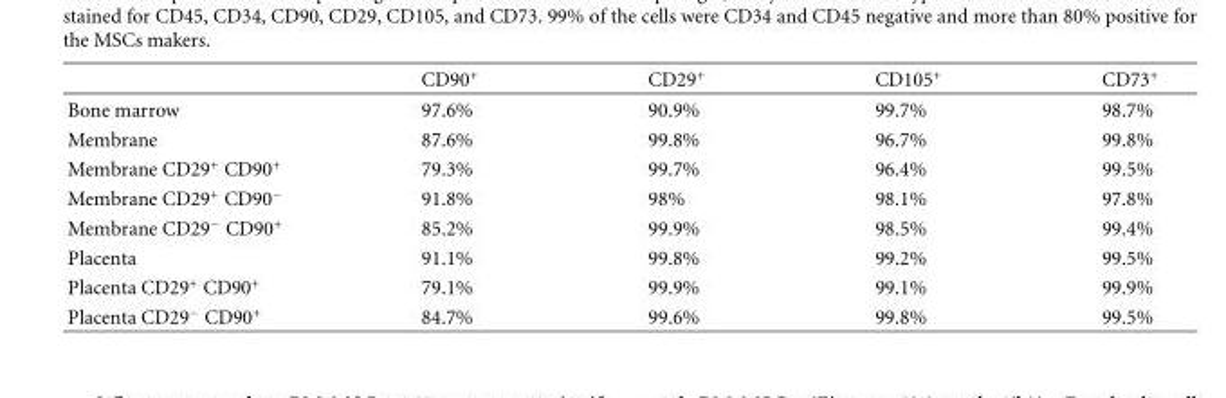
<table><thead><tr><td></td><td>CD90<sup>+</sup></td><td>CD29<sup>+</sup></td><td>CD105<sup>+</sup></td><td>CD73<sup>+</sup></td></tr></thead><tbody><tr><td>Bone marrow</td><td>97.6%</td><td>90.9%</td><td>99.7%</td><td>98.7%</td></tr><tr><td>Membrane</td><td>87.6%</td><td>99.8%</td><td>96.7%</td><td>99.8%</td></tr><tr><td>Membrane CD29<sup>+</sup> CD90<sup>+</sup></td><td>79.3%</td><td>99.7%</td><td>96.4%</td><td>99.5%</td></tr><tr><td>Membrane CD29<sup>+</sup> CD90<sup>−</sup></td><td>91.8%</td><td>98%</td><td>98.1%</td><td>97.8%</td></tr><tr><td>Membrane CD29<sup>−</sup> CD90<sup>+</sup></td><td>85.2%</td><td>99.9%</td><td>98.5%</td><td>99.4%</td></tr><tr><td>Placenta</td><td>91.1%</td><td>99.8%</td><td>99.2%</td><td>99.5%</td></tr><tr><td>Placenta CD29<sup>+</sup> CD90<sup>+</sup></td><td>79.1%</td><td>99.9%</td><td>99.1%</td><td>99.9%</td></tr><tr><td>Placenta CD29<sup>−</sup> CD90<sup>+</sup></td><td>84.7%</td><td>99.6%</td><td>99.8%</td><td>99.5%</td></tr></tbody></table>